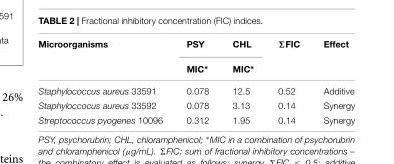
<table><thead><tr><td rowspan="2">Microorganisms</td><td rowspan="2">PSY MIC∗</td><td rowspan="2">CHL MIC∗</td><td rowspan="2">ΣFIC</td><td rowspan="2">Effect</td></tr><tr></tr></thead><tbody><tr><td>Staphylococcus aureus 33591</td><td>0.078</td><td>12.5</td><td>0.52</td><td>Additive</td></tr><tr><td>Staphyloccocus aureus 33592</td><td>0.078</td><td>3.13</td><td>0.14</td><td>Synergy</td></tr><tr><td>Streptococcus pyogenes 10096</td><td>0.312</td><td>1.95</td><td>0.14</td><td>Synergy</td></tr></tbody></table>